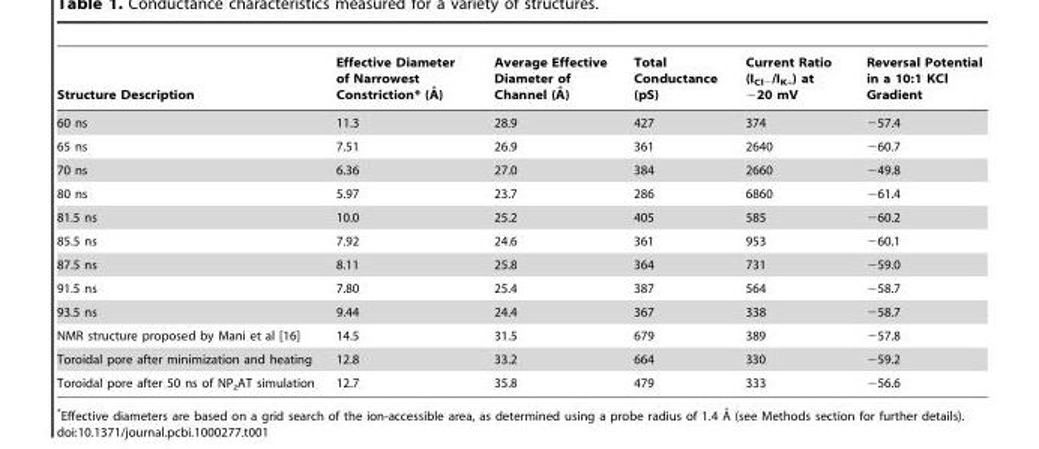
<table><thead><tr><td>Structure Description</td><td>Effective Diameter of Narrowest Constriction* (A˚ )</td><td>Average Effective Diameter of Channel (A˚ )</td><td>Total Conductance (pS)</td><td>Current Ratio (I<sub>Cl−</sub>/I<sub>K+</sub>) at −20 mV</td><td>Reversal Potential in a 10:1 KCl Gradient</td></tr></thead><tbody><tr><td>60 ns</td><td>11.3</td><td>28.9</td><td>427</td><td>374</td><td>−57.4</td></tr><tr><td>65 ns</td><td>7.51</td><td>26.9</td><td>361</td><td>2640</td><td>−60.7</td></tr><tr><td>70 ns</td><td>6.36</td><td>27.0</td><td>384</td><td>2660</td><td>−49.8</td></tr><tr><td>80 ns</td><td>5.97</td><td>23.7</td><td>286</td><td>6860</td><td>−61.4</td></tr><tr><td>81.5 ns</td><td>10.0</td><td>25.2</td><td>405</td><td>585</td><td>−60.2</td></tr><tr><td>85.5 ns</td><td>7.92</td><td>24.6</td><td>361</td><td>953</td><td>−60.1</td></tr><tr><td>87.5 ns</td><td>8.11</td><td>25.8</td><td>364</td><td>731</td><td>−59.0</td></tr><tr><td>91.5 ns</td><td>7.80</td><td>25.4</td><td>387</td><td>564</td><td>−58.7</td></tr><tr><td>93.5 ns</td><td>9.44</td><td>24.4</td><td>367</td><td>338</td><td>−58.7</td></tr><tr><td>NMR structure proposed by Mani et al [16]</td><td>14.5</td><td>31.5</td><td>679</td><td>389</td><td>−57.8</td></tr><tr><td>Toroidal pore after minimization and heating</td><td>12.8</td><td>33.2</td><td>664</td><td>330</td><td>−59.2</td></tr><tr><td>Toroidal pore after 50 ns of NP<sub>z</sub>AT simulation</td><td>12.7</td><td>35.8</td><td>479</td><td>333</td><td>−56.6</td></tr></tbody></table>